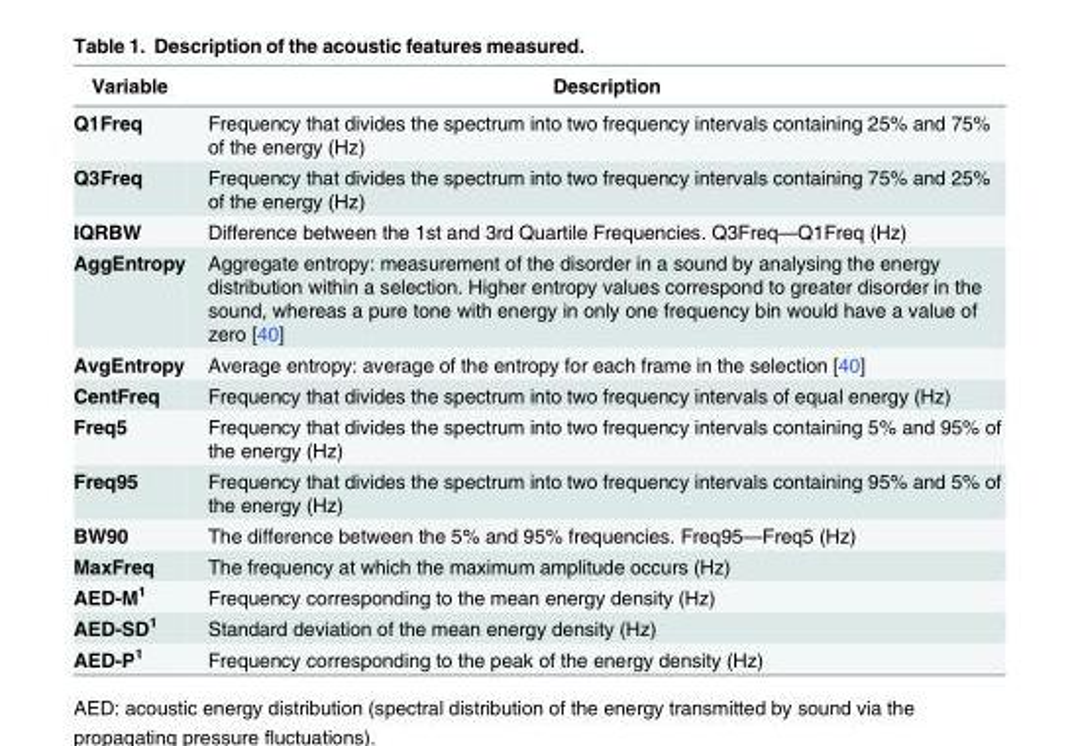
<table><thead><tr><td>Variable</td><td>Description</td></tr></thead><tbody><tr><td>Q1Freq</td><td>Frequency that divides the spectrum into two frequency intervals containing 25% and 75% of the energy (Hz)</td></tr><tr><td>Q3Freq</td><td>Frequency that divides the spectrum into two frequency intervals containing 75% and 25% of the energy (Hz)</td></tr><tr><td>IQRBW</td><td>Difference between the 1st and 3rd Quartile Frequencies. Q3Freq—Q1Freq (Hz)</td></tr><tr><td>AggEntropy</td><td>Aggregate entropy: measurement of the disorder in a sound by analysing the energy distribution within a selection. Higher entropy values correspond to greater disorder in the sound, whereas a pure tone with energy in only one frequency bin would have a value of zero [40]</td></tr><tr><td>AvgEntropy</td><td>Average entropy: average of the entropy for each frame in the selection [40]</td></tr><tr><td>CentFreq</td><td>Frequency that divides the spectrum into two frequency intervals of equal energy (Hz)</td></tr><tr><td>Freq5</td><td>Frequency that divides the spectrum into two frequency intervals containing 5% and 95% of the energy (Hz)</td></tr><tr><td>Freq95</td><td>Frequency that divides the spectrum into two frequency intervals containing 95% and 5% of the energy (Hz)</td></tr><tr><td>BW90</td><td>The difference between the 5% and 95% frequencies. Freq95—Freq5 (Hz)</td></tr><tr><td>MaxFreq</td><td>The frequency at which the maximum amplitude occurs (Hz)</td></tr><tr><td>AED-M<sup>1</sup></td><td>Frequency corresponding to the mean energy density (Hz)</td></tr><tr><td>AED-SD<sup>1</sup></td><td>Standard deviation of the mean energy density (Hz)</td></tr><tr><td>AED-P<sup>1</sup></td><td>Frequency corresponding to the peak of the energy density (Hz)</td></tr></tbody></table>